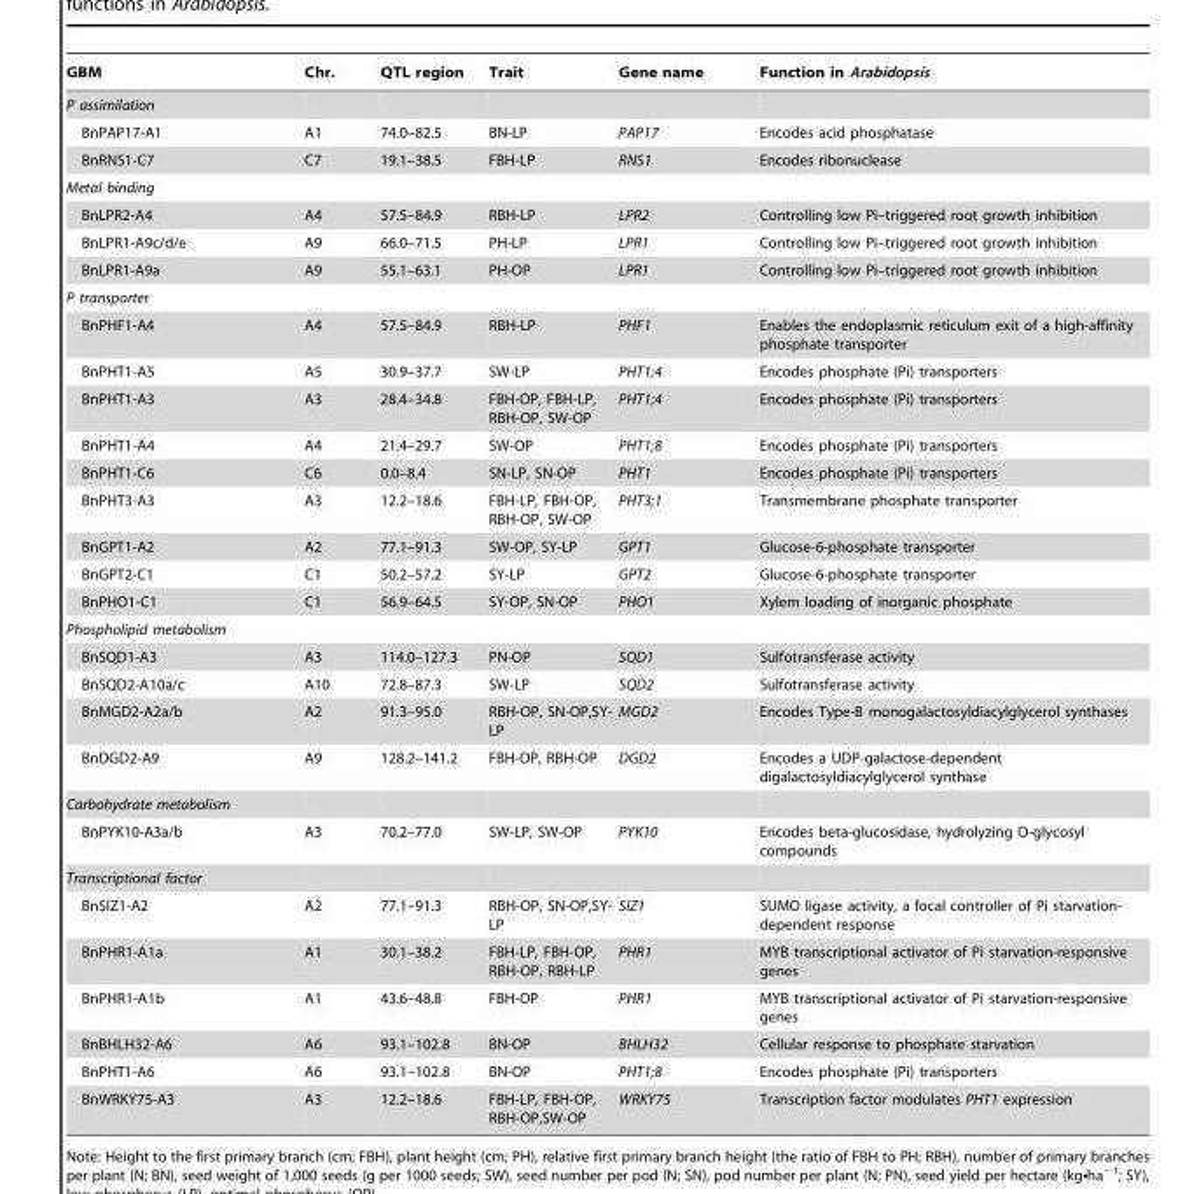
<table><thead><tr><td>GBM</td><td>Chr.</td><td>QTL region</td><td>Trait</td><td>Gene name</td><td>Function in Arabidopsis</td></tr></thead><tbody><tr><td colspan="6">P assimilation</td></tr><tr><td>BnPAP17-A1</td><td>A1</td><td>74.0–82.5</td><td>BN-LP</td><td>PAP17</td><td>Encodes acid phosphatase</td></tr><tr><td>BnRNS1-C7</td><td>C7</td><td>19.1–38.5</td><td>FBH-LP</td><td>RNS1</td><td>Encodes ribonuclease</td></tr><tr><td colspan="6">Metal binding</td></tr><tr><td>BnLPR2-A4</td><td>A4</td><td>57.5–84.9</td><td>RBH-LP</td><td>LPR2</td><td>Controlling low Pi–triggered root growth inhibition</td></tr><tr><td>BnLPR1-A9c/d/e</td><td>A9</td><td>66.0–71.5</td><td>PH-LP</td><td>LPR1</td><td>Controlling low Pi–triggered root growth inhibition</td></tr><tr><td>BnLPR1-A9a</td><td>A9</td><td>55.1–63.1</td><td>PH-OP</td><td>LPR1</td><td>Controlling low Pi–triggered root growth inhibition</td></tr><tr><td colspan="6">P transporter</td></tr><tr><td>BnPHF1-A4</td><td>A4</td><td>57.5–84.9</td><td>RBH-LP</td><td>PHF1</td><td>Enables the endoplasmic reticulum exit of a high-affinity phosphate transporter</td></tr><tr><td>BnPHT1-A5</td><td>A5</td><td>30.9–37.7</td><td>SW-LP</td><td>PHT1;4</td><td>Encodes phosphate (Pi) transporters</td></tr><tr><td>BnPHT1-A3</td><td>A3</td><td>28.4–34.8</td><td>FBH-OP, FBH-LP, RBH-OP, SW-OP</td><td>PHT1;4</td><td>Encodes phosphate (Pi) transporters</td></tr><tr><td>BnPHT1-A4</td><td>A4</td><td>21.4–29.7</td><td>SW-OP</td><td>PHT1;8</td><td>Encodes phosphate (Pi) transporters</td></tr><tr><td>BnPHT1-C6</td><td>C6</td><td>0.0–8.4</td><td>SN-LP, SN-OP</td><td>PHT1</td><td>Encodes phosphate (Pi) transporters</td></tr><tr><td>BnPHT3-A3</td><td>A3</td><td>12.2–18.6</td><td>FBH-LP, FBH-OP, RBH-OP, SW-OP</td><td>PHT3;1</td><td>Transmembrane phosphate transporter</td></tr><tr><td>BnGPT1-A2</td><td>A2</td><td>77.1–91.3</td><td>SW-OP, SY-LP</td><td>GPT1</td><td>Glucose-6-phosphate transporter</td></tr><tr><td>BnGPT2-C1</td><td>C1</td><td>50.2–57.2</td><td>SY-LP</td><td>GPT2</td><td>Glucose-6-phosphate transporter</td></tr><tr><td>BnPHO1-C1</td><td>C1</td><td>56.9–64.5</td><td>SY-OP, SN-OP</td><td>PHO1</td><td>Xylem loading of inorganic phosphate</td></tr><tr><td colspan="6">Phospholipid metabolism</td></tr><tr><td>BnSQD1-A3</td><td>A3</td><td>114.0–127.3</td><td>PN-OP</td><td>SQD1</td><td>Sulfotransferase activity</td></tr><tr><td>BnSQD2-A10a/c</td><td>A10</td><td>72.8–87.3</td><td>SW-LP</td><td>SQD2</td><td>Sulfotransferase activity</td></tr><tr><td>BnMGD2-A2a/b</td><td>A2</td><td>91.3–95.0</td><td>RBH-OP, SN-OP,SY- LP</td><td>MGD2</td><td>Encodes Type-B monogalactosyldiacylglycerol synthases</td></tr><tr><td>BnDGD2-A9</td><td>A9</td><td>128.2–141.2</td><td>FBH-OP, RBH-OP</td><td>DGD2</td><td>Encodes a UDP-galactose-dependent digalactosyldiacylglycerol synthase</td></tr><tr><td colspan="6">Carbohydrate metabolism</td></tr><tr><td>BnPYK10-A3a/b</td><td>A3</td><td>70.2–77.0</td><td>SW-LP, SW-OP</td><td>PYK10</td><td>Encodes beta-glucosidase, hydrolyzing O-glycosyl compounds</td></tr><tr><td colspan="6">Transcriptional factor</td></tr><tr><td>BnSIZ1-A2</td><td>A2</td><td>77.1–91.3</td><td>RBH-OP, SN-OP,SY- LP</td><td>SIZ1</td><td>SUMO ligase activity, a focal controller of Pi starvation- dependent response</td></tr><tr><td>BnPHR1-A1a</td><td>A1</td><td>30.1–38.2</td><td>FBH-LP, FBH-OP, RBH-OP, RBH-LP</td><td>PHR1</td><td>MYB transcriptional activator of Pi starvation-responsive genes</td></tr><tr><td>BnPHR1-A1b</td><td>A1</td><td>43.6–48.8</td><td>FBH-OP</td><td>PHR1</td><td>MYB transcriptional activator of Pi starvation-responsive genes</td></tr><tr><td>BnBHLH32-A6</td><td>A6</td><td>93.1–102.8</td><td>BN-OP</td><td>BHLH32</td><td>Cellular response to phosphate starvation</td></tr><tr><td>BnPHT1-A6</td><td>A6</td><td>93.1–102.8</td><td>BN-OP</td><td>PHT1;8</td><td>Encodes phosphate (Pi) transporters</td></tr><tr><td>BnWRKY75-A3</td><td>A3</td><td>12.2–18.6</td><td>FBH-LP, FBH-OP, RBH-OP,SW-OP</td><td>WRKY75</td><td>Transcription factor modulates PHT1 expression</td></tr></tbody></table>